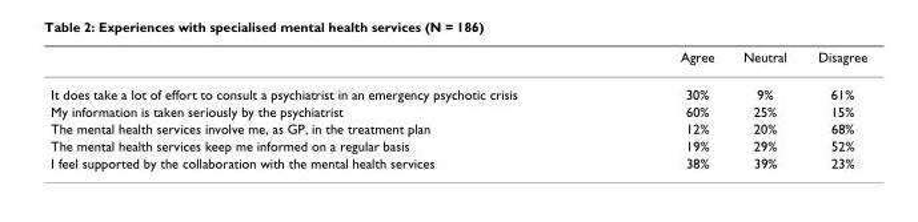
<table><thead><tr><td></td><td>Agree</td><td>Neutral</td><td>Disagree</td></tr></thead><tbody><tr><td>It does take a lot of effort to consult a psychiatrist in an emergency psychotic crisis</td><td>30%</td><td>9%</td><td>61%</td></tr><tr><td>My information is taken seriously by the psychiatrist</td><td>60%</td><td>25%</td><td>15%</td></tr><tr><td>The mental health services involve me, as GP, in the treatment plan</td><td>12%</td><td>20%</td><td>68%</td></tr><tr><td>The mental health services keep me informed on a regular basis</td><td>19%</td><td>29%</td><td>52%</td></tr><tr><td>I feel supported by the collaboration with the mental health services</td><td>38%</td><td>39%</td><td>23%</td></tr></tbody></table>